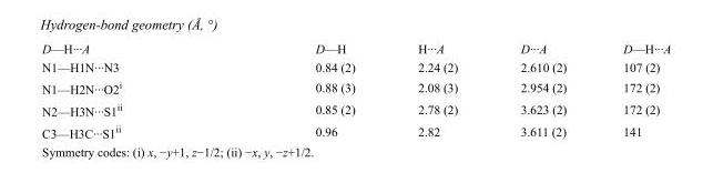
<table><tbody><tr><td>D—H···A</td><td>D—H</td><td>H···A</td><td>D···A</td><td>D—H···A</td></tr><tr><td>N1—H1N···N3</td><td>0.84 (2)</td><td>2.24 (2)</td><td>2.610 (2)</td><td>107 (2)</td></tr><tr><td>N1—H2N···O2<sup>i</sup></td><td>0.88 (3)</td><td>2.08 (3)</td><td>2.954 (2)</td><td>172 (2)</td></tr><tr><td>N2—H3N···S1<sup>ii</sup></td><td>0.85 (2)</td><td>2.78 (2)</td><td>3.623 (2)</td><td>172 (2)</td></tr><tr><td>C3—H3C···S1<sup>ii</sup></td><td>0.96</td><td>2.82</td><td>3.611 (2)</td><td>141</td></tr></tbody></table>